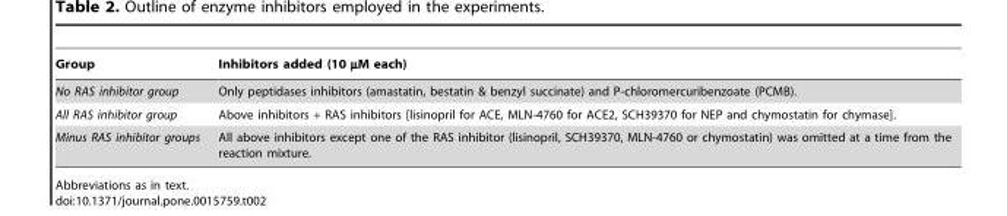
<table><thead><tr><td>Group</td><td>Inhibitors added (10 µM each)</td></tr></thead><tbody><tr><td>No RAS inhibitor group</td><td>Only peptidases inhibitors (amastatin, bestatin &amp; benzyl succinate) and P-chloromercuribenzoate (PCMB).</td></tr><tr><td>All RAS inhibitor group</td><td>Above inhibitors + RAS inhibitors [lisinopril for ACE, MLN-4760 for ACE2, SCH39370 for NEP and chymostatin for chymase].</td></tr><tr><td>Minus RAS inhibitor groups</td><td>All above inhibitors except one of the RAS inhibitor (lisinopril, SCH39370, MLN-4760 or chymostatin) was omitted at a time from the reaction mixture.</td></tr></tbody></table>